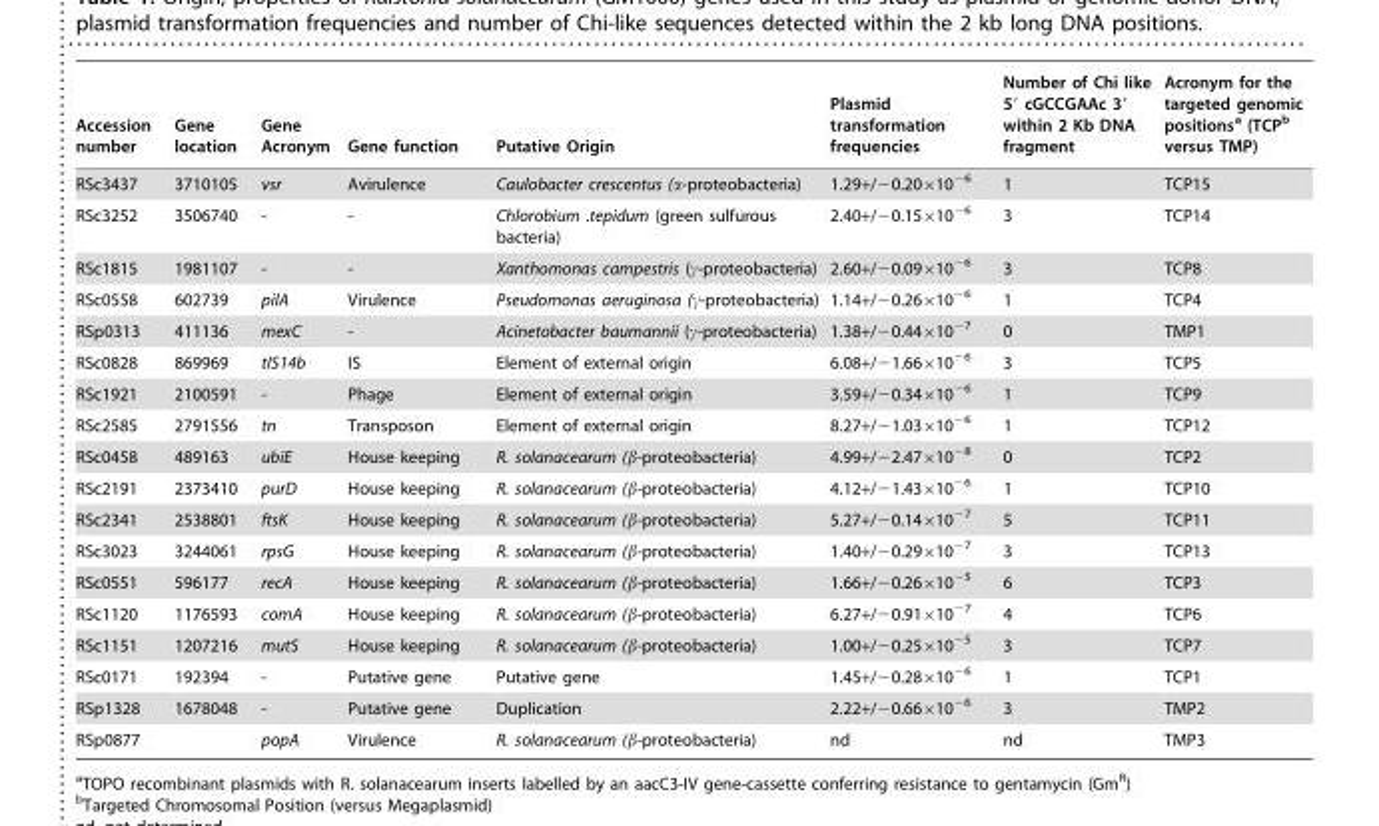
<table><thead><tr><td>Accession number</td><td>Gene location</td><td>Gene Acronym</td><td>Gene function</td><td>Putative Origin</td><td>Plasmid transformation frequencies</td><td>Number of Chi like 5′ cGCCGAAc 3′ within 2 Kb DNA fragment</td><td>Acronym for the targeted genomic positions<sup>a</sup> (TCP<sup>b</sup> versus TMP)</td></tr></thead><tbody><tr><td>RSc3437</td><td>3710105</td><td>vsr</td><td>Avirulence</td><td>Caulobacter crescentus (α-proteobacteria)</td><td>1.29+/−0.20×10<sup>−6</sup></td><td>1</td><td>TCP15</td></tr><tr><td>RSc3252</td><td>3506740</td><td>-</td><td>-</td><td>Chlorobium .tepidum (green sulfurous bacteria)</td><td>2.40+/−0.15×10<sup>−6</sup></td><td>3</td><td>TCP14</td></tr><tr><td>RSc1815</td><td>1981107</td><td>-</td><td>-</td><td>Xanthomonas campestris (γ-proteobacteria)</td><td>2.60+/−0.09×10<sup>−6</sup></td><td>3</td><td>TCP8</td></tr><tr><td>RSc0558</td><td>602739</td><td>pilA</td><td>Virulence</td><td>Pseudomonas aeruginosa (γ-proteobacteria)</td><td>1.14+/−0.26×10<sup>−6</sup></td><td>1</td><td>TCP4</td></tr><tr><td>RSp0313</td><td>411136</td><td>mexC</td><td>-</td><td>Acinetobacter baumannii (γ-proteobacteria)</td><td>1.38+/−0.44×10<sup>−7</sup></td><td>0</td><td>TMP1</td></tr><tr><td>RSc0828</td><td>869969</td><td>tIS14b</td><td>IS</td><td>Element of external origin</td><td>6.08+/−1.66×10<sup>−6</sup></td><td>3</td><td>TCP5</td></tr><tr><td>RSc1921</td><td>2100591</td><td>-</td><td>Phage</td><td>Element of external origin</td><td>3.59+/−0.34×10<sup>−6</sup></td><td>1</td><td>TCP9</td></tr><tr><td>RSc2585</td><td>2791556</td><td>tn</td><td>Transposon</td><td>Element of external origin</td><td>8.27+/−1.03×10<sup>−6</sup></td><td>1</td><td>TCP12</td></tr><tr><td>RSc0458</td><td>489163</td><td>ubiE</td><td>House keeping</td><td>R. solanacearum (β-proteobacteria)</td><td>4.99+/−2.47×10<sup>−8</sup></td><td>0</td><td>TCP2</td></tr><tr><td>RSc2191</td><td>2373410</td><td>purD</td><td>House keeping</td><td>R. solanacearum (β-proteobacteria)</td><td>4.12+/−1.43×10<sup>−6</sup></td><td>1</td><td>TCP10</td></tr><tr><td>RSc2341</td><td>2538801</td><td>ftsK</td><td>House keeping</td><td>R. solanacearum (β-proteobacteria)</td><td>5.27+/−0.14×10<sup>−7</sup></td><td>5</td><td>TCP11</td></tr><tr><td>RSc3023</td><td>3244061</td><td>rpsG</td><td>House keeping</td><td>R. solanacearum (β-proteobacteria)</td><td>1.40+/−0.29×10<sup>−7</sup></td><td>3</td><td>TCP13</td></tr><tr><td>RSc0551</td><td>596177</td><td>recA</td><td>House keeping</td><td>R. solanacearum (β-proteobacteria)</td><td>1.66+/−0.26×10<sup>−5</sup></td><td>6</td><td>TCP3</td></tr><tr><td>RSc1120</td><td>1176593</td><td>comA</td><td>House keeping</td><td>R. solanacearum (β-proteobacteria)</td><td>6.27+/−0.91×10<sup>−7</sup></td><td>4</td><td>TCP6</td></tr><tr><td>RSc1151</td><td>1207216</td><td>mutS</td><td>House keeping</td><td>R. solanacearum (β-proteobacteria)</td><td>1.00+/−0.25×10<sup>−5</sup></td><td>3</td><td>TCP7</td></tr><tr><td>RSc0171</td><td>192394</td><td>-</td><td>Putative gene</td><td>Putative gene</td><td>1.45+/−0.28×10<sup>−6</sup></td><td>1</td><td>TCP1</td></tr><tr><td>RSp1328</td><td>1678048</td><td>-</td><td>Putative gene</td><td>Duplication</td><td>2.22+/−0.66×10<sup>−6</sup></td><td>3</td><td>TMP2</td></tr><tr><td>RSp0877</td><td></td><td>popA</td><td>Virulence</td><td>R. solanacearum (β-proteobacteria)</td><td>nd</td><td>nd</td><td>TMP3</td></tr></tbody></table>